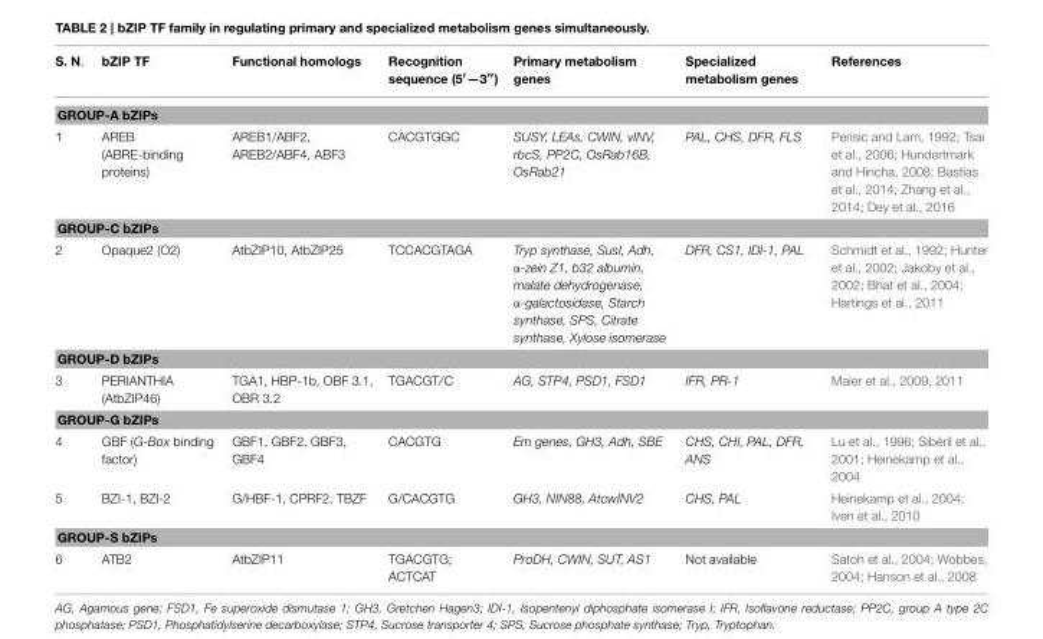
<table><thead><tr><td>S. N.</td><td>bZIP TF</td><td>Functional homologs</td><td>Recognition sequence (5′—3′′)</td><td>Primary metabolism genes</td><td>Specialized metabolism genes</td><td>References</td></tr></thead><tbody><tr><td colspan="7">GROUP-A bZIPs</td></tr><tr><td>1</td><td>AREB (ABRE-binding proteins)</td><td>AREB1/ABF2, AREB2/ABF4, ABF3</td><td>CACGTGGC</td><td>SUSY, LEAs, CWIN, vINV, rbcS, PP2C, OsRab16B, OsRab21</td><td>PAL, CHS, DFR, FLS</td><td>Perisic and Lam, 1992; Tsai et al., 2006; Hundertmark and Hincha, 2008; Bastías et al., 2014; Zhang et al., 2014; Dey et al., 2016</td></tr><tr><td colspan="7">GROUP-C bZIPs</td></tr><tr><td>2</td><td>Opaque2 (O2)</td><td>AtbZIP10, AtbZIP25</td><td>TCCACGTAGA</td><td>Tryp synthase, SusI, Adh, α-zein Z1, b32 albumin, malate dehydrogenase, α-galactosidase, Starch synthase, SPS, Citrate synthase, Xylose isomerase</td><td>DFR, CS1, IDI-1, PAL</td><td>Schmidt et al., 1992; Hunter et al., 2002; Jakoby et al., 2002; Bhat et al., 2004; Hartings et al., 2011</td></tr><tr><td colspan="7">GROUP-D bZIPs</td></tr><tr><td>3</td><td>PERIANTHIA (AtbZIP46)</td><td>TGA1, HBP-1b, OBF 3.1, OBR 3.2</td><td>TGACGT/C</td><td>AG, STP4, PSD1, FSD1</td><td>IFR, PR-1</td><td>Maier et al., 2009, 2011</td></tr><tr><td colspan="7">GROUP-G bZIPs</td></tr><tr><td>4</td><td>GBF (G-Box binding factor)</td><td>GBF1, GBF2, GBF3, GBF4</td><td>CACGTG</td><td>Em genes, GH3, Adh, SBE</td><td>CHS, CHI, PAL, DFR, ANS</td><td>Lu et al., 1996; Sibéril et al., 2001; Heinekamp et al., 2004</td></tr><tr><td>5</td><td>BZI-1, BZI-2</td><td>G/HBF-1, CPRF2, TBZF</td><td>G/CACGTG</td><td>GH3, NIN88, AtcwINV2</td><td>CHS, PAL</td><td>Heinekamp et al., 2004; Iven et al., 2010</td></tr><tr><td colspan="7">GROUP-S bZIPs</td></tr><tr><td>6</td><td>ATB2</td><td>AtbZIP11</td><td>TGACGTG; ACTCAT</td><td>ProDH, CWIN, SUT, AS1</td><td>Not available</td><td>Satoh et al., 2004; Wobbes, 2004; Hanson et al., 2008</td></tr></tbody></table>